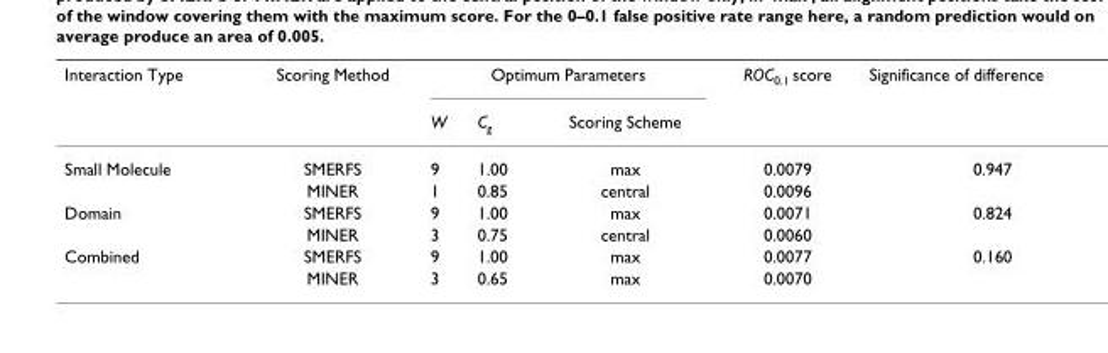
<table><thead><tr><td rowspan="2">Interaction Type</td><td rowspan="2">Scoring Method</td><td colspan="3">Optimum Parameters</td><td rowspan="2">ROC<sub>0.1</sub> score</td><td rowspan="2">Significance of difference</td></tr><tr><td>W</td><td>C<sub>g</sub></td><td>Scoring Scheme</td></tr></thead><tbody><tr><td rowspan="2">Small Molecule</td><td>SMERFS</td><td>9</td><td>1.00</td><td>max</td><td>0.0079</td><td>0.947</td></tr><tr><td>MINER</td><td>1</td><td>0.85</td><td>central</td><td>0.0096</td><td></td></tr><tr><td rowspan="2">Domain</td><td>SMERFS</td><td>9</td><td>1.00</td><td>max</td><td>0.0071</td><td>0.824</td></tr><tr><td>MINER</td><td>3</td><td>0.75</td><td>central</td><td>0.0060</td><td></td></tr><tr><td rowspan="2">Combined</td><td>SMERFS</td><td>9</td><td>1.00</td><td>max</td><td>0.0077</td><td>0.160</td></tr><tr><td>MINER</td><td>3</td><td>0.65</td><td>max</td><td>0.0070</td><td></td></tr></tbody></table>